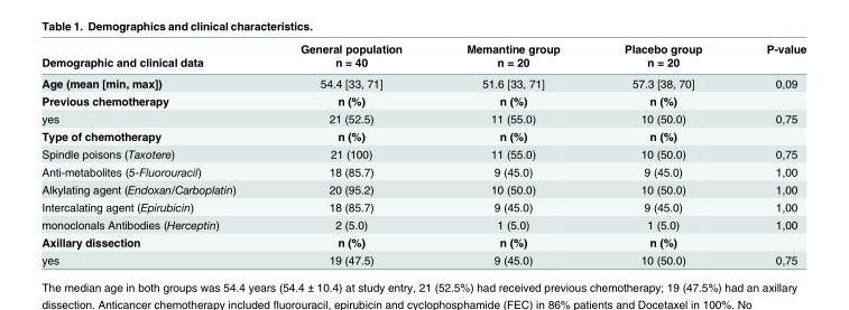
<table><thead><tr><td rowspan="2">Demographic and clinical data</td><td rowspan="2">General population n = 40</td><td rowspan="2">Memantine group n = 20</td><td rowspan="2">Placebo group n = 20</td><td rowspan="2">P-value</td></tr><tr></tr></thead><tbody><tr><td>Age (mean [min, max])</td><td>54.4 [33, 71]</td><td>51.6 [33, 71]</td><td>57.3 [38, 70]</td><td>0,09</td></tr><tr><td>Previous chemotherapy</td><td>n (%)</td><td>n (%)</td><td>n (%)</td><td></td></tr><tr><td>yes</td><td>21 (52.5)</td><td>11 (55.0)</td><td>10 (50.0)</td><td>0,75</td></tr><tr><td>Type of chemotherapy</td><td>n (%)</td><td>n (%)</td><td>n (%)</td><td></td></tr><tr><td>Spindle poisons (Taxotere)</td><td>21 (100)</td><td>11 (55.0)</td><td>10 (50.0)</td><td>0,75</td></tr><tr><td>Anti-metabolites (5-Fluorouracil)</td><td>18 (85.7)</td><td>9 (45.0)</td><td>9 (45.0)</td><td>1,00</td></tr><tr><td>Alkylating agent (Endoxan/Carboplatin)</td><td>20 (95.2)</td><td>10 (50.0)</td><td>10 (50.0)</td><td>1,00</td></tr><tr><td>Intercalating agent (Epirubicin)</td><td>18 (85.7)</td><td>9 (45.0)</td><td>9 (45.0)</td><td>1,00</td></tr><tr><td>monoclonals Antibodies (Herceptin)</td><td>2 (5.0)</td><td>1 (5.0)</td><td>1 (5.0)</td><td>1,00</td></tr><tr><td>Axillary dissection</td><td>n (%)</td><td>n (%)</td><td>n (%)</td><td></td></tr><tr><td>yes</td><td>19 (47.5)</td><td>9 (45.0)</td><td>10 (50.0)</td><td>0,75</td></tr></tbody></table>